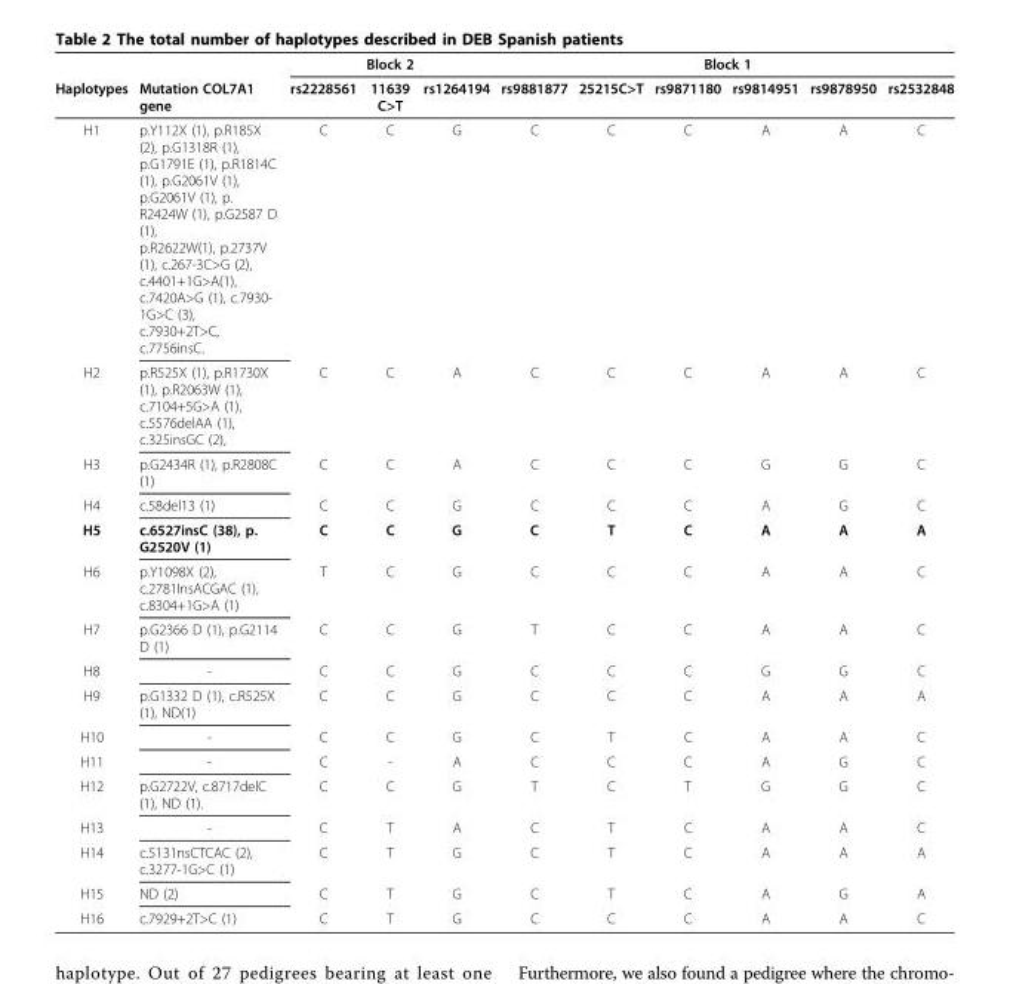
<table><thead><tr><td rowspan="2">Haplotypes</td><td rowspan="2">Mutation COL7A1 gene</td><td colspan="3">Block 2</td><td colspan="6">Block 1</td></tr><tr><td>rs2228561</td><td>11639 C&gt;T</td><td>rs1264194</td><td>rs9881877</td><td>25215C&gt;T</td><td>rs9871180</td><td>rs9814951</td><td>rs9878950</td><td>rs2532848</td></tr></thead><tbody><tr><td>H1</td><td>p.Y112X (1), p.R185X (2), p.G1318R (1), p.G1791E (1), p.R1814C (1), p.G2061V (1), p.G2061V (1), p. R2424W (1), p.G2587 D (1), p.R2622W(1), p.2737V (1), c.267-3C&gt;G (2), c.4401+1G&gt;A(1), c.7420A&gt;G (1), c.7930- 1G&gt;C (3), c.7930+2T&gt;C, c.7756insC.</td><td>C</td><td>C</td><td>G</td><td>C</td><td>C</td><td>C</td><td>A</td><td>A</td><td>C</td></tr><tr><td>H2</td><td>p.R525X (1), p.R1730X (1), p.R2063W (1), c.7104+5G&gt;A (1), c.5576delAA (1), c.325insGC (2),</td><td>C</td><td>C</td><td>A</td><td>C</td><td>C</td><td>C</td><td>A</td><td>A</td><td>C</td></tr><tr><td>H3</td><td>p.G2434R (1), p.R2808C (1)</td><td>C</td><td>C</td><td>A</td><td>C</td><td>C</td><td>C</td><td>G</td><td>G</td><td>C</td></tr><tr><td>H4</td><td>c.58del13 (1)</td><td>C</td><td>C</td><td>G</td><td>C</td><td>C</td><td>C</td><td>A</td><td>G</td><td>C</td></tr><tr><td>H5</td><td>c.6527insC (38), p. G2520V (1)</td><td>C</td><td>C</td><td>G</td><td>C</td><td>T</td><td>C</td><td>A</td><td>A</td><td>A</td></tr><tr><td>H6</td><td>p.Y1098X (2), c.2781InsACGAC (1), c.8304+1G&gt;A (1)</td><td>T</td><td>C</td><td>G</td><td>C</td><td>C</td><td>C</td><td>A</td><td>A</td><td>C</td></tr><tr><td>H7</td><td>p.G2366 D (1), p.G2114 D (1)</td><td>C</td><td>C</td><td>G</td><td>T</td><td>C</td><td>C</td><td>A</td><td>A</td><td>C</td></tr><tr><td>H8</td><td>-</td><td>C</td><td>C</td><td>G</td><td>C</td><td>C</td><td>C</td><td>G</td><td>G</td><td>C</td></tr><tr><td>H9</td><td>p.G1332 D (1), c.R525X (1), ND(1)</td><td>C</td><td>C</td><td>G</td><td>C</td><td>C</td><td>C</td><td>A</td><td>A</td><td>A</td></tr><tr><td>H10</td><td>-</td><td>C</td><td>C</td><td>G</td><td>C</td><td>T</td><td>C</td><td>A</td><td>A</td><td>C</td></tr><tr><td>H11</td><td>-</td><td>C</td><td>-</td><td>A</td><td>C</td><td>C</td><td>C</td><td>A</td><td>G</td><td>C</td></tr><tr><td>H12</td><td>p.G2722V, c.8717delC (1), ND (1).</td><td>C</td><td>C</td><td>G</td><td>T</td><td>C</td><td>T</td><td>G</td><td>G</td><td>C</td></tr><tr><td>H13</td><td>-</td><td>C</td><td>T</td><td>A</td><td>C</td><td>T</td><td>C</td><td>A</td><td>A</td><td>C</td></tr><tr><td>H14</td><td>c.5131nsCTCAC (2), c.3277-1G&gt;C (1)</td><td>C</td><td>T</td><td>G</td><td>C</td><td>T</td><td>C</td><td>A</td><td>A</td><td>A</td></tr><tr><td>H15</td><td>ND (2)</td><td>C</td><td>T</td><td>G</td><td>C</td><td>T</td><td>C</td><td>A</td><td>G</td><td>A</td></tr><tr><td>H16</td><td>c.7929+2T&gt;C (1)</td><td>C</td><td>T</td><td>G</td><td>C</td><td>C</td><td>C</td><td>A</td><td>A</td><td>C</td></tr></tbody></table>